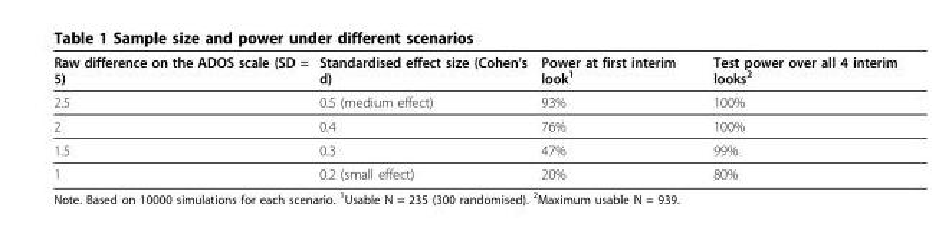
<table><thead><tr><td>Raw difference on the ADOS scale (SD = 5)</td><td>Standardised effect size (Cohen’s d)</td><td>Power at first interim look<sup>1</sup></td><td>Test power over all 4 interim looks<sup>2</sup></td></tr></thead><tbody><tr><td>2.5</td><td>0.5 (medium effect)</td><td>93%</td><td>100%</td></tr><tr><td>2</td><td>0.4</td><td>76%</td><td>100%</td></tr><tr><td>1.5</td><td>0.3</td><td>47%</td><td>99%</td></tr><tr><td>1</td><td>0.2 (small effect)</td><td>20%</td><td>80%</td></tr></tbody></table>